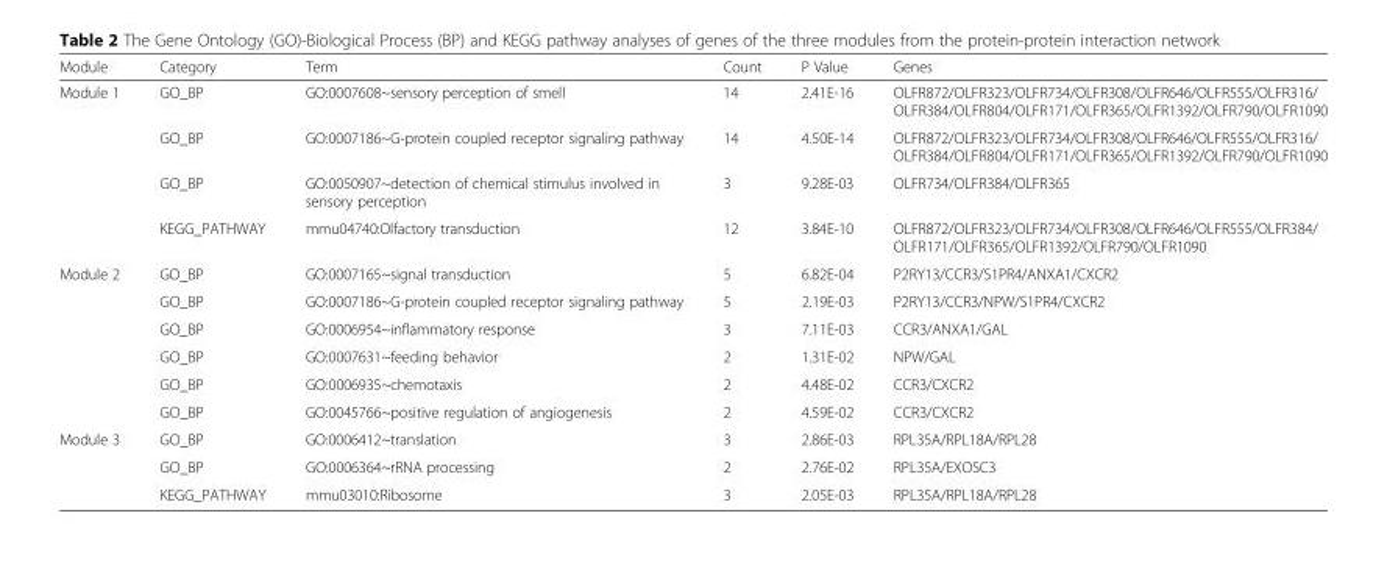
<table><thead><tr><td>Module</td><td>Category</td><td>Term</td><td>Count</td><td>P Value</td><td>Genes</td></tr></thead><tbody><tr><td rowspan="4">Module 1</td><td>GO_BP</td><td>GO:0007608~sensory perception of smell</td><td>14</td><td>2.41E-16</td><td>OLFR872/OLFR323/OLFR734/OLFR308/OLFR646/OLFR555/OLFR316/ OLFR384/OLFR804/OLFR171/OLFR365/OLFR1392/OLFR790/OLFR1090</td></tr><tr><td>GO_BP</td><td>GO:0007186~G-protein coupled receptor signaling pathway</td><td>14</td><td>4.50E-14</td><td>OLFR872/OLFR323/OLFR734/OLFR308/OLFR646/OLFR555/OLFR316/ OLFR384/OLFR804/OLFR171/OLFR365/OLFR1392/OLFR790/OLFR1090</td></tr><tr><td>GO_BP</td><td>GO:0050907~detection of chemical stimulus involved in sensory perception</td><td>3</td><td>9.28E-03</td><td>OLFR734/OLFR384/OLFR365</td></tr><tr><td>KEGG_PATHWAY</td><td>mmu04740:Olfactory transduction</td><td>12</td><td>3.84E-10</td><td>OLFR872/OLFR323/OLFR734/OLFR308/OLFR646/OLFR555/OLFR384/ OLFR171/OLFR365/OLFR1392/OLFR790/OLFR1090</td></tr><tr><td rowspan="6">Module 2</td><td>GO_BP</td><td>GO:0007165~signal transduction</td><td>5</td><td>6.82E-04</td><td>P2RY13/CCR3/S1PR4/ANXA1/CXCR2</td></tr><tr><td>GO_BP</td><td>GO:0007186~G-protein coupled receptor signaling pathway</td><td>5</td><td>2.19E-03</td><td>P2RY13/CCR3/NPW/S1PR4/CXCR2</td></tr><tr><td>GO_BP</td><td>GO:0006954~inflammatory response</td><td>3</td><td>7.11E-03</td><td>CCR3/ANXA1/GAL</td></tr><tr><td>GO_BP</td><td>GO:0007631~feeding behavior</td><td>2</td><td>1.31E-02</td><td>NPW/GAL</td></tr><tr><td>GO_BP</td><td>GO:0006935~chemotaxis</td><td>2</td><td>4.48E-02</td><td>CCR3/CXCR2</td></tr><tr><td>GO_BP</td><td>GO:0045766~positive regulation of angiogenesis</td><td>2</td><td>4.59E-02</td><td>CCR3/CXCR2</td></tr><tr><td rowspan="3">Module 3</td><td>GO_BP</td><td>GO:0006412~translation</td><td>3</td><td>2.86E-03</td><td>RPL35A/RPL18A/RPL28</td></tr><tr><td>GO_BP</td><td>GO:0006364~rRNA processing</td><td>2</td><td>2.76E-02</td><td>RPL35A/EXOSC3</td></tr><tr><td>KEGG_PATHWAY</td><td>mmu03010:Ribosome</td><td>3</td><td>2.05E-03</td><td>RPL35A/RPL18A/RPL28</td></tr></tbody></table>